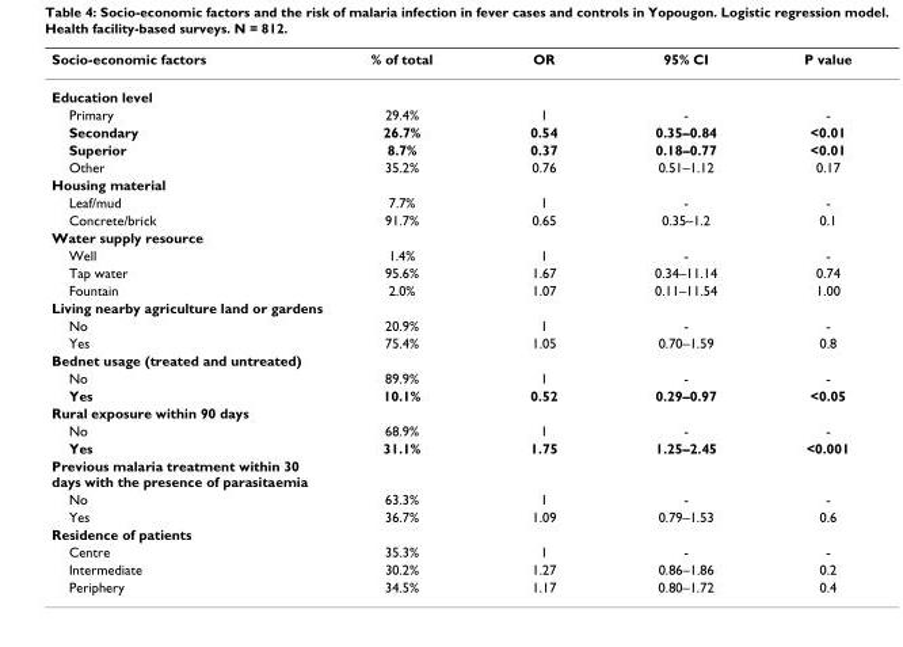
<table><thead><tr><td>Socio-economic factors</td><td>% of total</td><td>OR</td><td>95% CI</td><td>P value</td></tr></thead><tbody><tr><td colspan="5">Education level</td></tr><tr><td>Primary</td><td>29.4%</td><td>1</td><td>-</td><td>-</td></tr><tr><td>Secondary</td><td>26.7%</td><td>0.54</td><td>0.35–0.84</td><td>&lt;0.01</td></tr><tr><td>Superior</td><td>8.7%</td><td>0.37</td><td>0.18–0.77</td><td>&lt;0.01</td></tr><tr><td>Other</td><td>35.2%</td><td>0.76</td><td>0.51–1.12</td><td>0.17</td></tr><tr><td colspan="5">Housing material</td></tr><tr><td>Leaf/mud</td><td>7.7%</td><td>1</td><td>-</td><td>-</td></tr><tr><td>Concrete/brick</td><td>91.7%</td><td>0.65</td><td>0.35–1.2</td><td>0.1</td></tr><tr><td colspan="5">Water supply resource</td></tr><tr><td>Well</td><td>1.4%</td><td>1</td><td>-</td><td>-</td></tr><tr><td>Tap water</td><td>95.6%</td><td>1.67</td><td>0.34–11.14</td><td>0.74</td></tr><tr><td>Fountain</td><td>2.0%</td><td>1.07</td><td>0.11–11.54</td><td>1.00</td></tr><tr><td colspan="5">Living nearby agriculture land or gardens</td></tr><tr><td>No</td><td>20.9%</td><td>1</td><td>-</td><td>-</td></tr><tr><td>Yes</td><td>75.4%</td><td>1.05</td><td>0.70–1.59</td><td>0.8</td></tr><tr><td colspan="5">Bednet usage (treated and untreated)</td></tr><tr><td>No</td><td>89.9%</td><td>1</td><td>-</td><td>-</td></tr><tr><td>Yes</td><td>10.1%</td><td>0.52</td><td>0.29–0.97</td><td>&lt;0.05</td></tr><tr><td colspan="5">Rural exposure within 90 days</td></tr><tr><td>No</td><td>68.9%</td><td>1</td><td>-</td><td>-</td></tr><tr><td>Yes</td><td>31.1%</td><td>1.75</td><td>1.25–2.45</td><td>&lt;0.001</td></tr><tr><td colspan="5">Previous malaria treatment within 30 days with the presence of parasitaemia</td></tr><tr><td>No</td><td>63.3%</td><td>1</td><td>-</td><td>-</td></tr><tr><td>Yes</td><td>36.7%</td><td>1.09</td><td>0.79–1.53</td><td>0.6</td></tr><tr><td colspan="5">Residence of patients</td></tr><tr><td>Centre</td><td>35.3%</td><td>1</td><td>-</td><td>-</td></tr><tr><td>Intermediate</td><td>30.2%</td><td>1.27</td><td>0.86–1.86</td><td>0.2</td></tr><tr><td>Periphery</td><td>34.5%</td><td>1.17</td><td>0.80–1.72</td><td>0.4</td></tr></tbody></table>